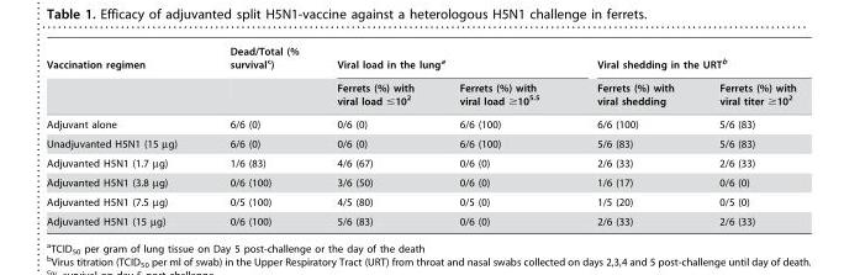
<table><thead><tr><td rowspan="2">Vaccination regimen</td><td rowspan="2">Dead/Total (% survival<sup>c</sup>)</td><td colspan="2">Viral load in the lung<sup>a</sup></td><td colspan="2">Viral shedding in the URT<sup>b</sup></td></tr><tr><td>Ferrets (%) with viral load ≤10<sup>2</sup></td><td>Ferrets (%) with viral load ≥10<sup>5.5</sup></td><td>Ferrets (%) with viral shedding</td><td>Ferrets (%) with viral titer ≥10<sup>2</sup></td></tr></thead><tbody><tr><td>Adjuvant alone</td><td>6/6 (0)</td><td>0/6 (0)</td><td>6/6 (100)</td><td>6/6 (100)</td><td>5/6 (83)</td></tr><tr><td>Unadjuvanted H5N1 (15 µg)</td><td>6/6 (0)</td><td>0/6 (0)</td><td>6/6 (100)</td><td>5/6 (83)</td><td>5/6 (83)</td></tr><tr><td>Adjuvanted H5N1 (1.7 µg)</td><td>1/6 (83)</td><td>4/6 (67)</td><td>0/6 (0)</td><td>2/6 (33)</td><td>2/6 (33)</td></tr><tr><td>Adjuvanted H5N1 (3.8 µg)</td><td>0/6 (100)</td><td>3/6 (50)</td><td>0/6 (0)</td><td>1/6 (17)</td><td>0/6 (0)</td></tr><tr><td>Adjuvanted H5N1 (7.5 µg)</td><td>0/5 (100)</td><td>4/5 (80)</td><td>0/5 (0)</td><td>1/5 (20)</td><td>0/5 (0)</td></tr><tr><td>Adjuvanted H5N1 (15 µg)</td><td>0/6 (100)</td><td>5/6 (83)</td><td>0/6 (0)</td><td>2/6 (33)</td><td>2/6 (33)</td></tr></tbody></table>